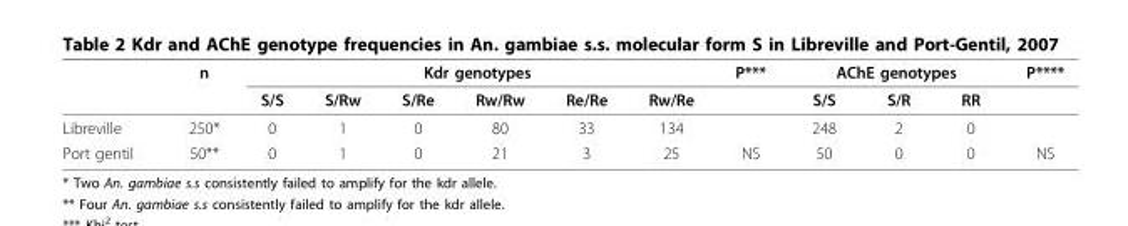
<table><thead><tr><td rowspan="2"></td><td rowspan="2">n</td><td colspan="6">Kdr genotypes</td><td rowspan="2">P***</td><td colspan="3">AChE genotypes</td><td rowspan="2">P****</td></tr><tr><td>S/S</td><td>S/Rw</td><td>S/Re</td><td>Rw/Rw</td><td>Re/Re</td><td>Rw/Re</td><td>S/S</td><td>S/R</td><td>RR</td></tr></thead><tbody><tr><td>Libreville</td><td>250*</td><td>0</td><td>1</td><td>0</td><td>80</td><td>33</td><td>134</td><td></td><td>248</td><td>2</td><td>0</td><td></td></tr><tr><td>Port gentil</td><td>50**</td><td>0</td><td>1</td><td>0</td><td>21</td><td>3</td><td>25</td><td>NS</td><td>50</td><td>0</td><td>0</td><td>NS</td></tr></tbody></table>